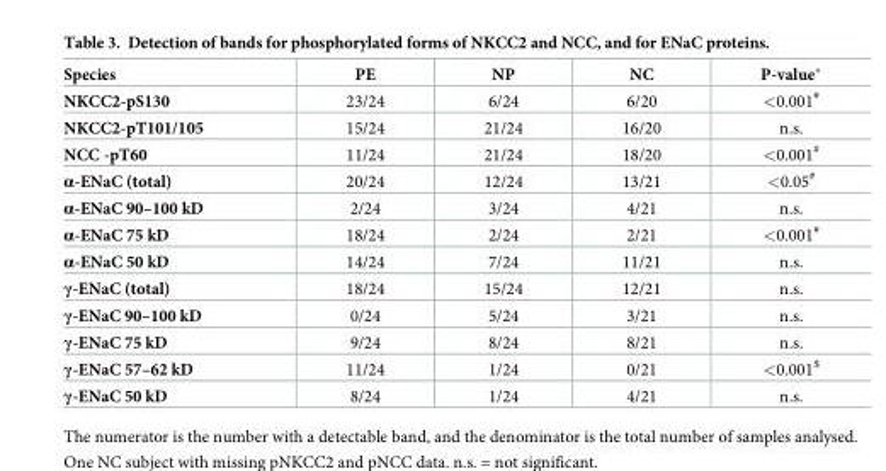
<table><thead><tr><td>Species</td><td>PE</td><td>NP</td><td>NC</td><td>P-value*</td></tr></thead><tbody><tr><td>NKCC2-pS130</td><td>23/24</td><td>6/24</td><td>6/20</td><td>&lt;0.001<sup>#</sup></td></tr><tr><td>NKCC2-pT101/105</td><td>15/24</td><td>21/24</td><td>16/20</td><td>n.s.</td></tr><tr><td>NCC -pT60</td><td>11/24</td><td>21/24</td><td>18/20</td><td>&lt;0.001<sup>#</sup></td></tr><tr><td>α-ENaC (total)</td><td>20/24</td><td>12/24</td><td>13/21</td><td>&lt;0.05<sup>#</sup></td></tr><tr><td>α-ENaC 90–100 kD</td><td>2/24</td><td>3/24</td><td>4/21</td><td>n.s.</td></tr><tr><td>α-ENaC 75 kD</td><td>18/24</td><td>2/24</td><td>2/21</td><td>&lt;0.001<sup>#</sup></td></tr><tr><td>α-ENaC 50 kD</td><td>14/24</td><td>7/24</td><td>11/21</td><td>n.s.</td></tr><tr><td>γ-ENaC (total)</td><td>18/24</td><td>15/24</td><td>12/21</td><td>n.s.</td></tr><tr><td>γ-ENaC 90–100 kD</td><td>0/24</td><td>5/24</td><td>3/21</td><td>n.s.</td></tr><tr><td>γ-ENaC 75 kD</td><td>9/24</td><td>8/24</td><td>8/21</td><td>n.s.</td></tr><tr><td>γ-ENaC 57–62 kD</td><td>11/24</td><td>1/24</td><td>0/21</td><td>&lt;0.001<sup>$</sup></td></tr><tr><td>γ-ENaC 50 kD</td><td>8/24</td><td>1/24</td><td>4/21</td><td>n.s.</td></tr></tbody></table>